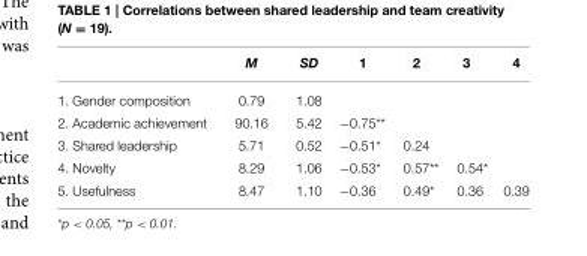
<table><thead><tr><td></td><td>M</td><td>SD</td><td>1</td><td>2</td><td>3</td><td>4</td></tr></thead><tbody><tr><td>1. Gender composition</td><td>0.79</td><td>1.08</td><td></td><td></td><td></td><td></td></tr><tr><td>2. Academic achievement</td><td>90.16</td><td>5.42</td><td>−0.75**</td><td></td><td></td><td></td></tr><tr><td>3. Shared leadership</td><td>5.71</td><td>0.52</td><td>−0.51*</td><td>0.24</td><td></td><td></td></tr><tr><td>4. Novelty</td><td>8.29</td><td>1.06</td><td>−0.53*</td><td>0.57**</td><td>0.54*</td><td></td></tr><tr><td>5. Usefulness</td><td>8.47</td><td>1.10</td><td>−0.36</td><td>0.49*</td><td>0.36</td><td>0.39</td></tr></tbody></table>